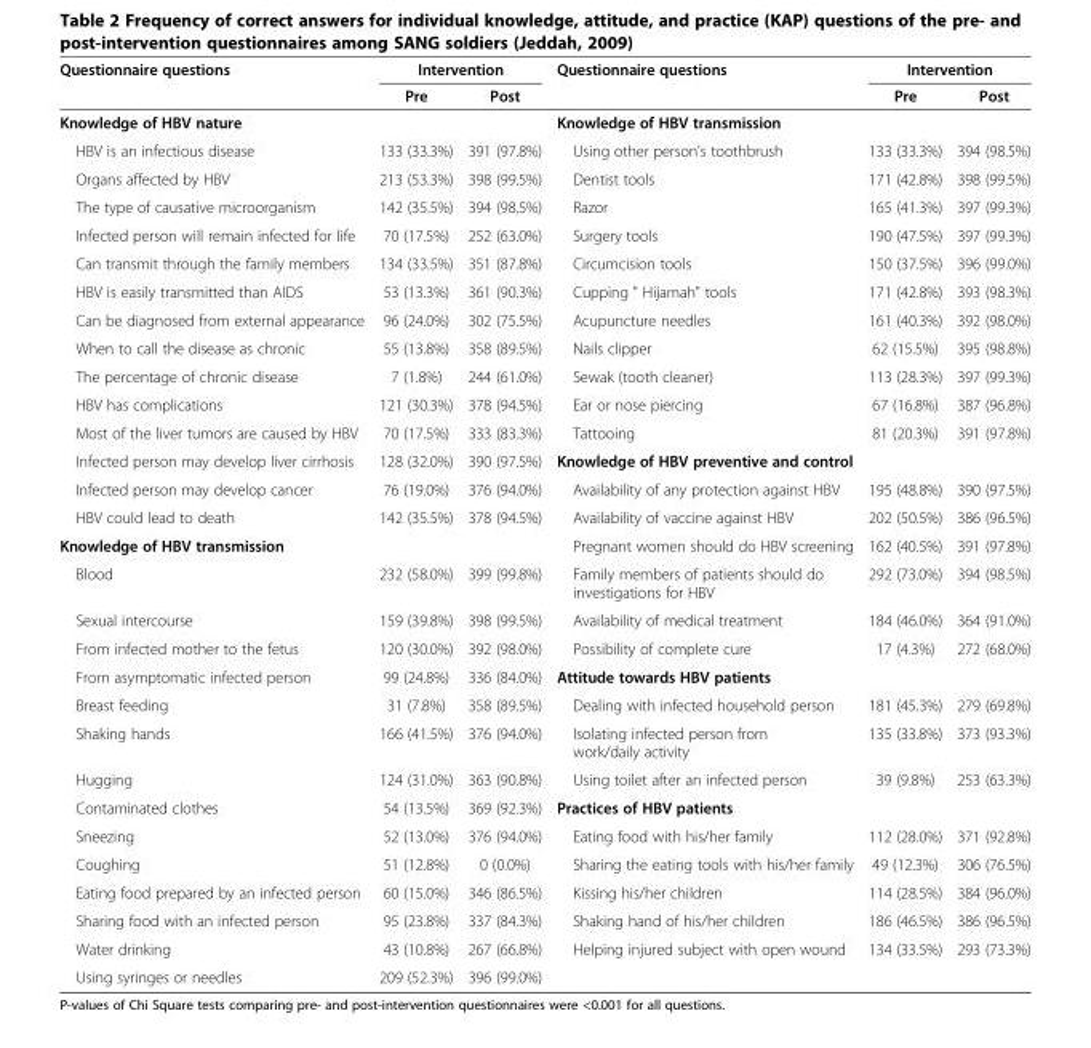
<table><thead><tr><td rowspan="2">Questionnaire questions</td><td colspan="2">Intervention</td><td rowspan="2">Questionnaire questions</td><td colspan="2">Intervention</td></tr><tr><td>Pre</td><td>Post</td><td>Pre</td><td>Post</td></tr></thead><tbody><tr><td>Knowledge of HBV nature</td><td></td><td></td><td>Knowledge of HBV transmission</td><td></td><td></td></tr><tr><td>HBV is an infectious disease</td><td>133 (33.3%)</td><td>391 (97.8%)</td><td>Using other person&#x27;s toothbrush</td><td>133 (33.3%)</td><td>394 (98.5%)</td></tr><tr><td>Organs affected by HBV</td><td>213 (53.3%)</td><td>398 (99.5%)</td><td>Dentist tools</td><td>171 (42.8%)</td><td>398 (99.5%)</td></tr><tr><td>The type of causative microorganism</td><td>142 (35.5%)</td><td>394 (98.5%)</td><td>Razor</td><td>165 (41.3%)</td><td>397 (99.3%)</td></tr><tr><td>Infected person will remain infected for life</td><td>70 (17.5%)</td><td>252 (63.0%)</td><td>Surgery tools</td><td>190 (47.5%)</td><td>397 (99.3%)</td></tr><tr><td>Can transmit through the family members</td><td>134 (33.5%)</td><td>351 (87.8%)</td><td>Circumcision tools</td><td>150 (37.5%)</td><td>396 (99.0%)</td></tr><tr><td>HBV is easily transmitted than AIDS</td><td>53 (13.3%)</td><td>361 (90.3%)</td><td>Cupping &quot; Hijamah&quot; tools</td><td>171 (42.8%)</td><td>393 (98.3%)</td></tr><tr><td>Can be diagnosed from external appearance</td><td>96 (24.0%)</td><td>302 (75.5%)</td><td>Acupuncture needles</td><td>161 (40.3%)</td><td>392 (98.0%)</td></tr><tr><td>When to call the disease as chronic</td><td>55 (13.8%)</td><td>358 (89.5%)</td><td>Nails clipper</td><td>62 (15.5%)</td><td>395 (98.8%)</td></tr><tr><td>The percentage of chronic disease</td><td>7 (1.8%)</td><td>244 (61.0%)</td><td>Sewak (tooth cleaner)</td><td>113 (28.3%)</td><td>397 (99.3%)</td></tr><tr><td>HBV has complications</td><td>121 (30.3%)</td><td>378 (94.5%)</td><td>Ear or nose piercing</td><td>67 (16.8%)</td><td>387 (96.8%)</td></tr><tr><td>Most of the liver tumors are caused by HBV</td><td>70 (17.5%)</td><td>333 (83.3%)</td><td>Tattooing</td><td>81 (20.3%)</td><td>391 (97.8%)</td></tr><tr><td>Infected person may develop liver cirrhosis</td><td>128 (32.0%)</td><td>390 (97.5%)</td><td>Knowledge of HBV preventive and control</td><td></td><td></td></tr><tr><td>Infected person may develop cancer</td><td>76 (19.0%)</td><td>376 (94.0%)</td><td>Availability of any protection against HBV</td><td>195 (48.8%)</td><td>390 (97.5%)</td></tr><tr><td>HBV could lead to death</td><td>142 (35.5%)</td><td>378 (94.5%)</td><td>Availability of vaccine against HBV</td><td>202 (50.5%)</td><td>386 (96.5%)</td></tr><tr><td>Knowledge of HBV transmission</td><td></td><td></td><td>Pregnant women should do HBV screening</td><td>162 (40.5%)</td><td>391 (97.8%)</td></tr><tr><td>Blood</td><td>232 (58.0%)</td><td>399 (99.8%)</td><td>Family members of patients should do investigations for HBV</td><td>292 (73.0%)</td><td>394 (98.5%)</td></tr><tr><td>Sexual intercourse</td><td>159 (39.8%)</td><td>398 (99.5%)</td><td>Availability of medical treatment</td><td>184 (46.0%)</td><td>364 (91.0%)</td></tr><tr><td>From infected mother to the fetus</td><td>120 (30.0%)</td><td>392 (98.0%)</td><td>Possibility of complete cure</td><td>17 (4.3%)</td><td>272 (68.0%)</td></tr><tr><td>From asymptomatic infected person</td><td>99 (24.8%)</td><td>336 (84.0%)</td><td>Attitude towards HBV patients</td><td></td><td></td></tr><tr><td>Breast feeding</td><td>31 (7.8%)</td><td>358 (89.5%)</td><td>Dealing with infected household person</td><td>181 (45.3%)</td><td>279 (69.8%)</td></tr><tr><td>Shaking hands</td><td>166 (41.5%)</td><td>376 (94.0%)</td><td>Isolating infected person from work/daily activity</td><td>135 (33.8%)</td><td>373 (93.3%)</td></tr><tr><td>Hugging</td><td>124 (31.0%)</td><td>363 (90.8%)</td><td>Using toilet after an infected person</td><td>39 (9.8%)</td><td>253 (63.3%)</td></tr><tr><td>Contaminated clothes</td><td>54 (13.5%)</td><td>369 (92.3%)</td><td>Practices of HBV patients</td><td></td><td></td></tr><tr><td>Sneezing</td><td>52 (13.0%)</td><td>376 (94.0%)</td><td>Eating food with his/her family</td><td>112 (28.0%)</td><td>371 (92.8%)</td></tr><tr><td>Coughing</td><td>51 (12.8%)</td><td>0 (0.0%)</td><td>Sharing the eating tools with his/her family</td><td>49 (12.3%)</td><td>306 (76.5%)</td></tr><tr><td>Eating food prepared by an infected person</td><td>60 (15.0%)</td><td>346 (86.5%)</td><td>Kissing his/her children</td><td>114 (28.5%)</td><td>384 (96.0%)</td></tr><tr><td>Sharing food with an infected person</td><td>95 (23.8%)</td><td>337 (84.3%)</td><td>Shaking hand of his/her children</td><td>186 (46.5%)</td><td>386 (96.5%)</td></tr><tr><td>Water drinking</td><td>43 (10.8%)</td><td>267 (66.8%)</td><td>Helping injured subject with open wound</td><td>134 (33.5%)</td><td>293 (73.3%)</td></tr><tr><td>Using syringes or needles</td><td>209 (52.3%)</td><td>396 (99.0%)</td><td></td><td></td><td></td></tr></tbody></table>